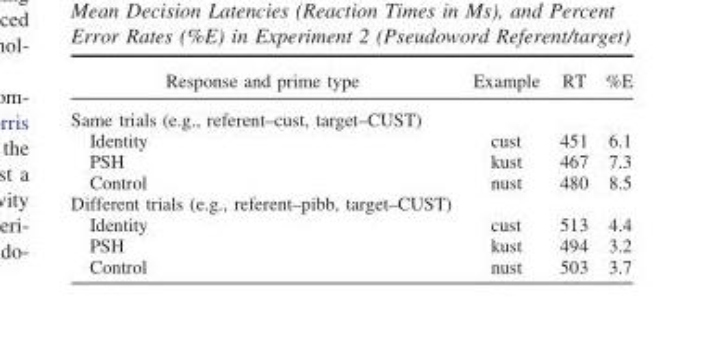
<table><thead><tr><td>Response and prime type</td><td>Example</td><td>RT</td><td>%E</td></tr></thead><tbody><tr><td colspan="4">Same trials (e.g., referent–cust, target–CUST)</td></tr><tr><td>Identity</td><td>cust</td><td>451</td><td>6.1</td></tr><tr><td>PSH</td><td>kust</td><td>467</td><td>7.3</td></tr><tr><td>Control</td><td>nust</td><td>480</td><td>8.5</td></tr><tr><td colspan="4">Different trials (e.g., referent–pibb, target–CUST)</td></tr><tr><td>Identity</td><td>cust</td><td>513</td><td>4.4</td></tr><tr><td>PSH</td><td>kust</td><td>494</td><td>3.2</td></tr><tr><td>Control</td><td>nust</td><td>503</td><td>3.7</td></tr></tbody></table>